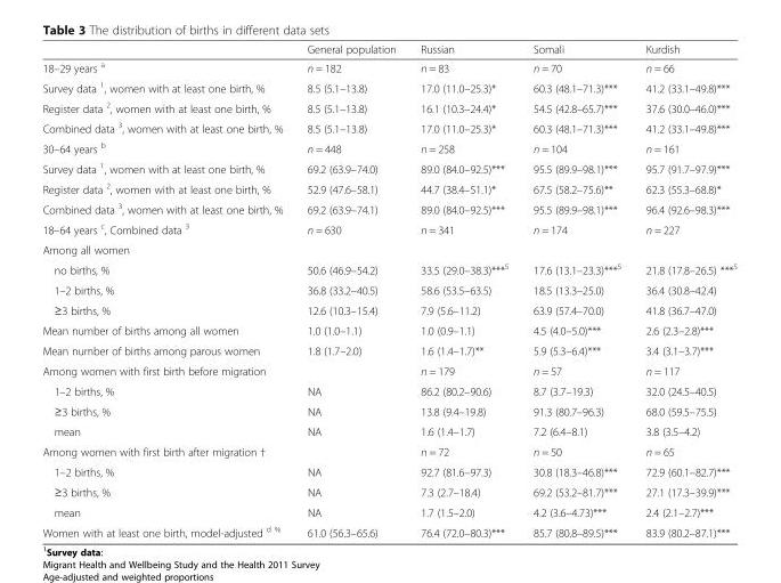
<table><thead><tr><td></td><td>General population</td><td>Russian</td><td>Somali</td><td>Kurdish</td></tr></thead><tbody><tr><td>18–29 years <sup>a</sup></td><td>n = 182</td><td>n = 83</td><td>n = 70</td><td>n = 66</td></tr><tr><td>Survey data <sup>1</sup>, women with at least one birth, %</td><td>8.5 (5.1–13.8)</td><td>17.0 (11.0–25.3)*</td><td>60.3 (48.1–71.3)***</td><td>41.2 (33.1–49.8)***</td></tr><tr><td>Register data <sup>2</sup>, women with at least one birth, %</td><td>8.5 (5.1–13.8)</td><td>16.1 (10.3–24.4)*</td><td>54.5 (42.8–65.7)***</td><td>37.6 (30.0–46.0)***</td></tr><tr><td>Combined data <sup>3</sup>, women with at least one birth, %</td><td>8.5 (5.1–13.8)</td><td>17.0 (11.0–25.3)*</td><td>60.3 (48.1–71.3)***</td><td>41.2 (33.1–49.8)***</td></tr><tr><td>30–64 years <sup>b</sup></td><td>n = 448</td><td>n = 258</td><td>n = 104</td><td>n = 161</td></tr><tr><td>Survey data <sup>1</sup>, women with at least one birth, %</td><td>69.2 (63.9–74.0)</td><td>89.0 (84.0–92.5)***</td><td>95.5 (89.9–98.1)***</td><td>95.7 (91.7–97.9)***</td></tr><tr><td>Register data <sup>2</sup>, women with at least one birth, %</td><td>52.9 (47.6–58.1)</td><td>44.7 (38.4–51.1)*</td><td>67.5 (58.2–75.6)**</td><td>62.3 (55.3–68.8)*</td></tr><tr><td>Combined data <sup>3</sup>, women with at least one birth, %</td><td>69.2 (63.9–74.1)</td><td>89.0 (84.0–92.5)***</td><td>95.5 (89.9–98.1)***</td><td>96.4 (92.6–98.3)***</td></tr><tr><td>18–64 years <sup>c</sup>, Combined data <sup>3</sup></td><td>n = 630</td><td>n = 341</td><td>n = 174</td><td>n = 227</td></tr><tr><td colspan="5">Among all women</td></tr><tr><td>no births, %</td><td>50.6 (46.9–54.2)</td><td>33.5 (29.0–38.3)***<sup>5</sup></td><td>17.6 (13.1–23.3)***<sup>5</sup></td><td>21.8 (17.8–26.5) ***<sup>5</sup></td></tr><tr><td>1–2 births, %</td><td>36.8 (33.2–40.5)</td><td>58.6 (53.5–63.5)</td><td>18.5 (13.3–25.0)</td><td>36.4 (30.8–42.4)</td></tr><tr><td>≥3 births, %</td><td>12.6 (10.3–15.4)</td><td>7.9 (5.6–11.2)</td><td>63.9 (57.4–70.0)</td><td>41.8 (36.7–47.0)</td></tr><tr><td>Mean number of births among all women</td><td>1.0 (1.0–1.1)</td><td>1.0 (0.9–1.1)</td><td>4.5 (4.0–5.0)***</td><td>2.6 (2.3–2.8)***</td></tr><tr><td>Mean number of births among parous women</td><td>1.8 (1.7–2.0)</td><td>1.6 (1.4–1.7)**</td><td>5.9 (5.3–6.4)***</td><td>3.4 (3.1–3.7)***</td></tr><tr><td>Among women with first birth before migration</td><td></td><td>n = 179</td><td>n = 57</td><td>n = 117</td></tr><tr><td>1–2 births, %</td><td>NA</td><td>86.2 (80.2–90.6)</td><td>8.7 (3.7–19.3)</td><td>32.0 (24.5–40.5)</td></tr><tr><td>≥3 births, %</td><td>NA</td><td>13.8 (9.4–19.8)</td><td>91.3 (80.7–96.3)</td><td>68.0 (59.5–75.5)</td></tr><tr><td>mean</td><td>NA</td><td>1.6 (1.4–1.7)</td><td>7.2 (6.4–8.1)</td><td>3.8 (3.5–4.2)</td></tr><tr><td>Among women with first birth after migration †</td><td></td><td>n = 72</td><td>n = 50</td><td>n = 65</td></tr><tr><td>1–2 births, %</td><td>NA</td><td>92.7 (81.6–97.3)</td><td>30.8 (18.3–46.8)***</td><td>72.9 (60.1–82.7)***</td></tr><tr><td>≥3 births, %</td><td>NA</td><td>7.3 (2.7–18.4)</td><td>69.2 (53.2–81.7)***</td><td>27.1 (17.3–39.9)***</td></tr><tr><td>mean</td><td>NA</td><td>1.7 (1.5–2.0)</td><td>4.2 (3.6–4.73)***</td><td>2.4 (2.1–2.7)***</td></tr><tr><td>Women with at least one birth, model-adjusted <sup>d %</sup></td><td>61.0 (56.3–65.6)</td><td>76.4 (72.0–80.3)***</td><td>85.7 (80.8–89.5)***</td><td>83.9 (80.2–87.1)***</td></tr></tbody></table>